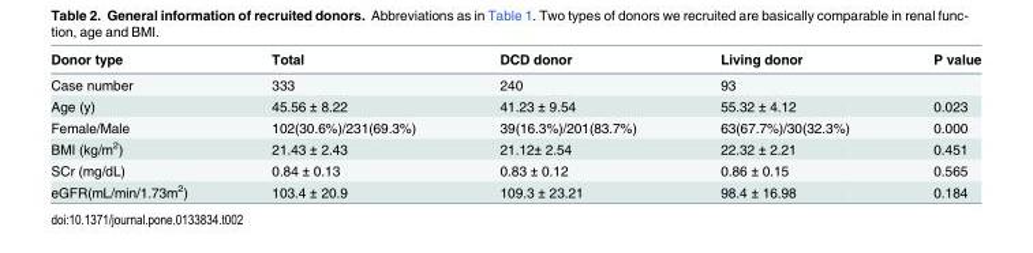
<table><thead><tr><td>Donor type</td><td>Total</td><td>DCD donor</td><td>Living donor</td><td>P value</td></tr></thead><tbody><tr><td>Case number</td><td>333</td><td>240</td><td>93</td><td></td></tr><tr><td>Age (y)</td><td>45.56 ± 8.22</td><td>41.23 ± 9.54</td><td>55.32 ± 4.12</td><td>0.023</td></tr><tr><td>Female/Male</td><td>102(30.6%)/231(69.3%)</td><td>39(16.3%)/201(83.7%)</td><td>63(67.7%)/30(32.3%)</td><td>0.000</td></tr><tr><td>BMI (kg/m<sup>2</sup>)</td><td>21.43 ± 2.43</td><td>21.12± 2.54</td><td>22.32 ± 2.21</td><td>0.451</td></tr><tr><td>SCr (mg/dL)</td><td>0.84 ± 0.13</td><td>0.83 ± 0.12</td><td>0.86 ± 0.15</td><td>0.565</td></tr><tr><td>eGFR(mL/min/1.73m<sup>2</sup>)</td><td>103.4 ± 20.9</td><td>109.3 ± 23.21</td><td>98.4 ± 16.98</td><td>0.184</td></tr></tbody></table>